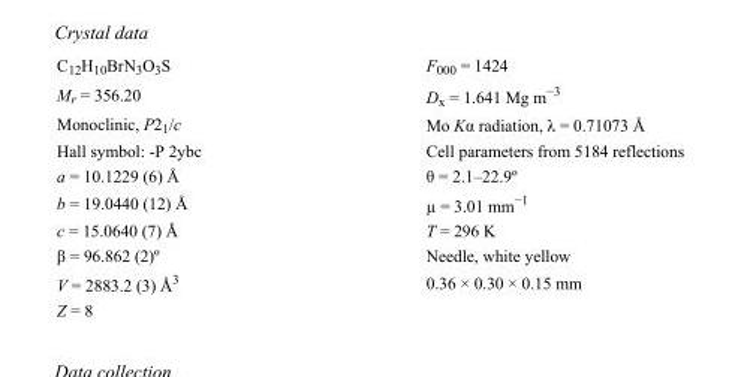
<table><tbody><tr><td>C<sub>12</sub>H<sub>10</sub>BrN<sub>3</sub>O<sub>3</sub>S</td><td>F000 = 1424</td></tr><tr><td>M<sub>r</sub> = 356.20</td><td>D<sub>x</sub> = 1.641 Mg m<sup>−3</sup></td></tr><tr><td>Monoclinic, P2<sub>1</sub>/c</td><td>Mo Kα radiation, λ = 0.71073 Å</td></tr><tr><td>Hall symbol: -P 2ybc</td><td>Cell parameters from 5184 reflections</td></tr><tr><td>a = 10.1229 (6) Å</td><td>θ = 2.1–22.9º</td></tr><tr><td>b = 19.0440 (12) Å</td><td>µ = 3.01 mm<sup>−1</sup></td></tr><tr><td>c = 15.0640 (7) Å</td><td>T = 296 K</td></tr><tr><td>β = 96.862 (2)º</td><td>Needle, white yellow</td></tr><tr><td>V = 2883.2 (3) Å<sup>3</sup></td><td>0.36 × 0.30 × 0.15 mm</td></tr><tr><td>Z = 8</td><td></td></tr></tbody></table>